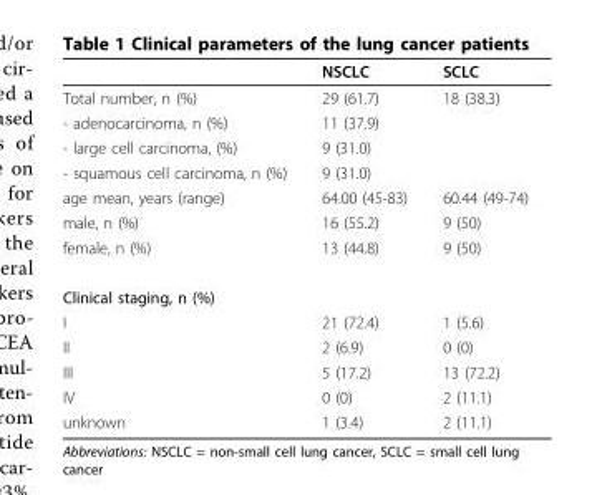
<table><thead><tr><td></td><td>NSCLC</td><td>SCLC</td></tr></thead><tbody><tr><td>Total number, n (%)</td><td>29 (61.7)</td><td>18 (38.3)</td></tr><tr><td>- adenocarcinoma, n (%)</td><td>11 (37.9)</td><td></td></tr><tr><td>- large cell carcinoma, (%)</td><td>9 (31.0)</td><td></td></tr><tr><td>- squamous cell carcinoma, n (%)</td><td>9 (31.0)</td><td></td></tr><tr><td>age mean, years (range)</td><td>64.00 (45-83)</td><td>60.44 (49-74)</td></tr><tr><td>male, n (%)</td><td>16 (55.2)</td><td>9 (50)</td></tr><tr><td>female, n (%)</td><td>13 (44.8)</td><td>9 (50)</td></tr><tr><td colspan="3">Clinical staging, n (%)</td></tr><tr><td>I</td><td>21 (72.4)</td><td>1 (5.6)</td></tr><tr><td>II</td><td>2 (6.9)</td><td>0 (0)</td></tr><tr><td>III</td><td>5 (17.2)</td><td>13 (72.2)</td></tr><tr><td>IV</td><td>0 (0)</td><td>2 (11.1)</td></tr><tr><td>unknown</td><td>1 (3.4)</td><td>2 (11.1)</td></tr></tbody></table>